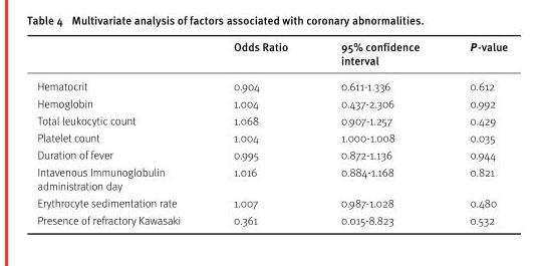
<table><thead><tr><td></td><td>Odds Ratio</td><td>95% confidence interval</td><td>P-value</td></tr></thead><tbody><tr><td>Hematocrit</td><td>0.904</td><td>0.611-1.336</td><td>0.612</td></tr><tr><td>Hemoglobin</td><td>1.004</td><td>0.437-2.306</td><td>0.992</td></tr><tr><td>Total leukocytic count</td><td>1.068</td><td>0.907-1.257</td><td>0.429</td></tr><tr><td>Platelet count</td><td>1.004</td><td>1.000-1.008</td><td>0.035</td></tr><tr><td>Duration of fever</td><td>0.995</td><td>0.872-1.136</td><td>0.944</td></tr><tr><td>Intavenous Immunoglobulin administration day</td><td>1.016</td><td>0.884-1.168</td><td>0.821</td></tr><tr><td>Erythrocyte sedimentation rate</td><td>1.007</td><td>0.987-1.028</td><td>0.480</td></tr><tr><td>Presence of refractory Kawasaki</td><td>0.361</td><td>0.015-8.823</td><td>0.532</td></tr></tbody></table>